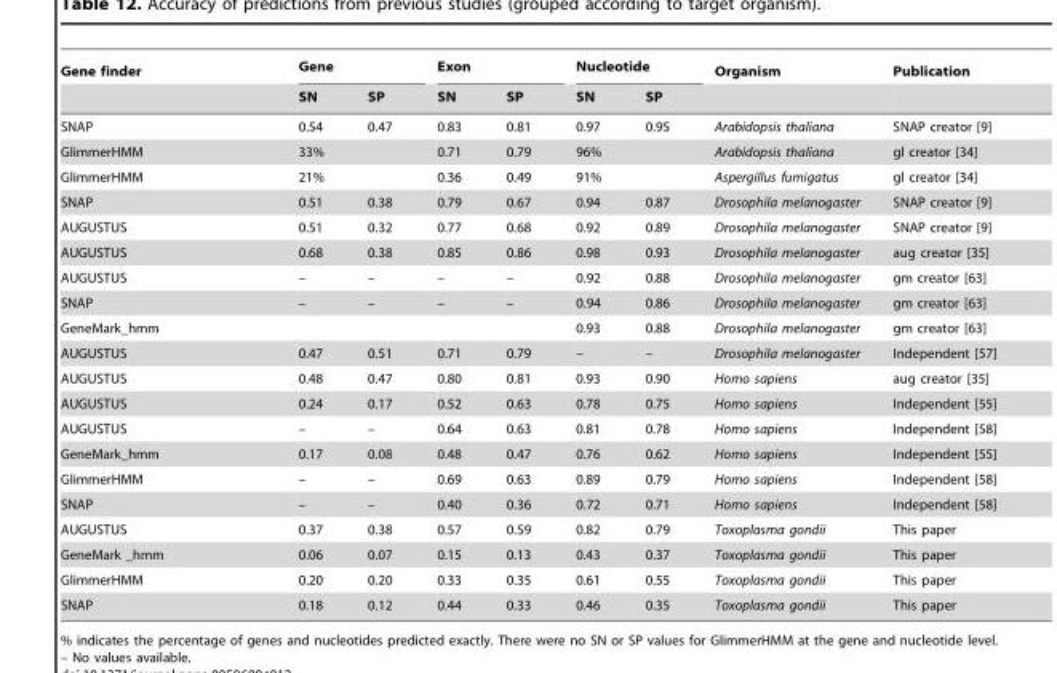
<table><thead><tr><td rowspan="2">Gene finder</td><td colspan="2">Gene</td><td colspan="2">Exon</td><td colspan="2">Nucleotide</td><td rowspan="2">Organism</td><td rowspan="2">Publication</td></tr><tr><td>SN</td><td>SP</td><td>SN</td><td>SP</td><td>SN</td><td>SP</td></tr></thead><tbody><tr><td>SNAP</td><td>0.54</td><td>0.47</td><td>0.83</td><td>0.81</td><td>0.97</td><td>0.95</td><td>Arabidopsis thaliana</td><td>SNAP creator [9]</td></tr><tr><td>GlimmerHMM</td><td colspan="2">33%</td><td>0.71</td><td>0.79</td><td colspan="2">96%</td><td>Arabidopsis thaliana</td><td>gl creator [34]</td></tr><tr><td>GlimmerHMM</td><td colspan="2">21%</td><td>0.36</td><td>0.49</td><td colspan="2">91%</td><td>Aspergillus fumigatus</td><td>gl creator [34]</td></tr><tr><td>SNAP</td><td>0.51</td><td>0.38</td><td>0.79</td><td>0.67</td><td>0.94</td><td>0.87</td><td>Drosophila melanogaster</td><td>SNAP creator [9]</td></tr><tr><td>AUGUSTUS</td><td>0.51</td><td>0.32</td><td>0.77</td><td>0.68</td><td>0.92</td><td>0.89</td><td>Drosophila melanogaster</td><td>SNAP creator [9]</td></tr><tr><td>AUGUSTUS</td><td>0.68</td><td>0.38</td><td>0.85</td><td>0.86</td><td>0.98</td><td>0.93</td><td>Drosophila melanogaster</td><td>aug creator [35]</td></tr><tr><td>AUGUSTUS</td><td>–</td><td>–</td><td>–</td><td>–</td><td>0.92</td><td>0.88</td><td>Drosophila melanogaster</td><td>gm creator [63]</td></tr><tr><td>SNAP</td><td>–</td><td>–</td><td>–</td><td>–</td><td>0.94</td><td>0.86</td><td>Drosophila melanogaster</td><td>gm creator [63]</td></tr><tr><td>GeneMark_hmm</td><td></td><td></td><td></td><td></td><td>0.93</td><td>0.88</td><td>Drosophila melanogaster</td><td>gm creator [63]</td></tr><tr><td>AUGUSTUS</td><td>0.47</td><td>0.51</td><td>0.71</td><td>0.79</td><td>–</td><td>–</td><td>Drosophila melanogaster</td><td>Independent [57]</td></tr><tr><td>AUGUSTUS</td><td>0.48</td><td>0.47</td><td>0.80</td><td>0.81</td><td>0.93</td><td>0.90</td><td>Homo sapiens</td><td>aug creator [35]</td></tr><tr><td>AUGUSTUS</td><td>0.24</td><td>0.17</td><td>0.52</td><td>0.63</td><td>0.78</td><td>0.75</td><td>Homo sapiens</td><td>Independent [55]</td></tr><tr><td>AUGUSTUS</td><td>–</td><td>–</td><td>0.64</td><td>0.63</td><td>0.81</td><td>0.78</td><td>Homo sapiens</td><td>Independent [58]</td></tr><tr><td>GeneMark_hmm</td><td>0.17</td><td>0.08</td><td>0.48</td><td>0.47</td><td>0.76</td><td>0.62</td><td>Homo sapiens</td><td>Independent [55]</td></tr><tr><td>GlimmerHMM</td><td>–</td><td>–</td><td>0.69</td><td>0.63</td><td>0.89</td><td>0.79</td><td>Homo sapiens</td><td>Independent [58]</td></tr><tr><td>SNAP</td><td>–</td><td>–</td><td>0.40</td><td>0.36</td><td>0.72</td><td>0.71</td><td>Homo sapiens</td><td>Independent [58]</td></tr><tr><td>AUGUSTUS</td><td>0.37</td><td>0.38</td><td>0.57</td><td>0.59</td><td>0.82</td><td>0.79</td><td>Toxoplasma gondii</td><td>This paper</td></tr><tr><td>GeneMark _hmm</td><td>0.06</td><td>0.07</td><td>0.15</td><td>0.13</td><td>0.43</td><td>0.37</td><td>Toxoplasma gondii</td><td>This paper</td></tr><tr><td>GlimmerHMM</td><td>0.20</td><td>0.20</td><td>0.33</td><td>0.35</td><td>0.61</td><td>0.55</td><td>Toxoplasma gondii</td><td>This paper</td></tr><tr><td>SNAP</td><td>0.18</td><td>0.12</td><td>0.44</td><td>0.33</td><td>0.46</td><td>0.35</td><td>Toxoplasma gondii</td><td>This paper</td></tr></tbody></table>